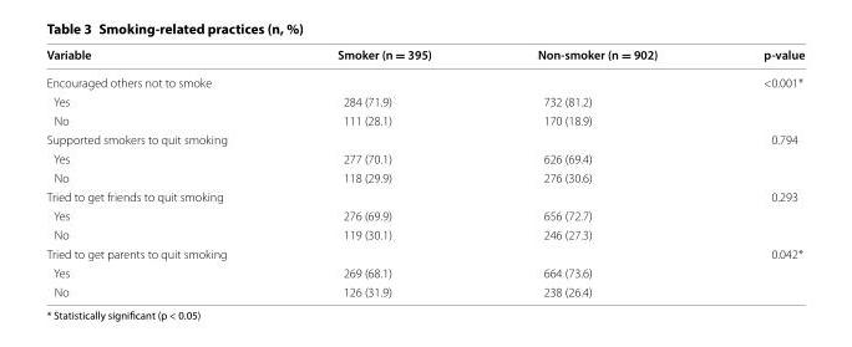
<table><thead><tr><td>Variable</td><td>Smoker (n = 395)</td><td>Non‑smoker (n = 902)</td><td>p‑value</td></tr></thead><tbody><tr><td colspan="3">Encouraged others not to smoke</td><td rowspan="3">&lt;0.001*</td></tr><tr><td>Yes</td><td>284 (71.9)</td><td>732 (81.2)</td></tr><tr><td>No</td><td>111 (28.1)</td><td>170 (18.9)</td></tr><tr><td colspan="3">Supported smokers to quit smoking</td><td rowspan="3">0.794</td></tr><tr><td>Yes</td><td>277 (70.1)</td><td>626 (69.4)</td></tr><tr><td>No</td><td>118 (29.9)</td><td>276 (30.6)</td></tr><tr><td colspan="3">Tried to get friends to quit smoking</td><td rowspan="3">0.293</td></tr><tr><td>Yes</td><td>276 (69.9)</td><td>656 (72.7)</td></tr><tr><td>No</td><td>119 (30.1)</td><td>246 (27.3)</td></tr><tr><td colspan="3">Tried to get parents to quit smoking</td><td rowspan="3">0.042*</td></tr><tr><td>Yes</td><td>269 (68.1)</td><td>664 (73.6)</td></tr><tr><td>No</td><td>126 (31.9)</td><td>238 (26.4)</td></tr></tbody></table>